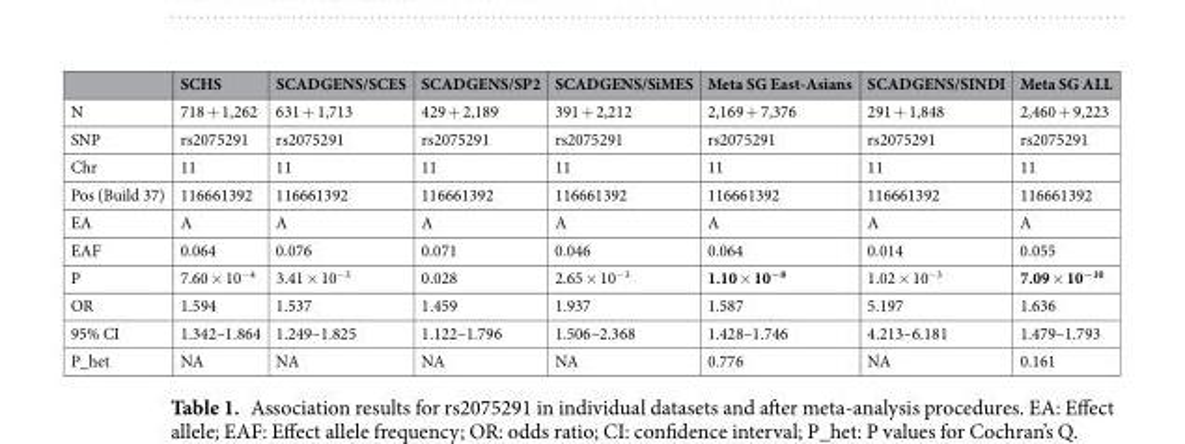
<table><thead><tr><td></td><td>SCHS</td><td>SCADGENS/SCES</td><td>SCADGENS/SP2</td><td>SCADGENS/SiMES</td><td>Meta SG East-Asians</td><td>SCADGENS/SINDI</td><td>Meta SG ALL</td></tr></thead><tbody><tr><td>N</td><td>718 + 1,262</td><td>631 + 1,713</td><td>429 + 2,189</td><td>391 + 2,212</td><td>2,169 + 7,376</td><td>291 + 1,848</td><td>2,460 + 9,223</td></tr><tr><td>SNP</td><td>rs2075291</td><td>rs2075291</td><td>rs2075291</td><td>rs2075291</td><td>rs2075291</td><td>rs2075291</td><td>rs2075291</td></tr><tr><td>Chr</td><td>11</td><td>11</td><td>11</td><td>11</td><td>11</td><td>11</td><td>11</td></tr><tr><td>Pos (Build 37)</td><td>116661392</td><td>116661392</td><td>116661392</td><td>116661392</td><td>116661392</td><td>116661392</td><td>116661392</td></tr><tr><td>EA</td><td>A</td><td>A</td><td>A</td><td>A</td><td>A</td><td>A</td><td>A</td></tr><tr><td>EAF</td><td>0.064</td><td>0.076</td><td>0.071</td><td>0.046</td><td>0.064</td><td>0.014</td><td>0.055</td></tr><tr><td>P</td><td>7.60 × 10<sup>−4</sup></td><td>3.41 × 10<sup>−3</sup></td><td>0.028</td><td>2.65 × 10<sup>−3</sup></td><td>1.10 × 10<sup>−8</sup></td><td>1.02 × 10<sup>−3</sup></td><td>7.09 × 10<sup>−10</sup></td></tr><tr><td>OR</td><td>1.594</td><td>1.537</td><td>1.459</td><td>1.937</td><td>1.587</td><td>5.197</td><td>1.636</td></tr><tr><td>95% CI</td><td>1.342–1.864</td><td>1.249–1.825</td><td>1.122–1.796</td><td>1.506–2.368</td><td>1.428–1.746</td><td>4.213–6.181</td><td>1.479–1.793</td></tr><tr><td>P_het</td><td>NA</td><td>NA</td><td>NA</td><td>NA</td><td>0.776</td><td>NA</td><td>0.161</td></tr></tbody></table>